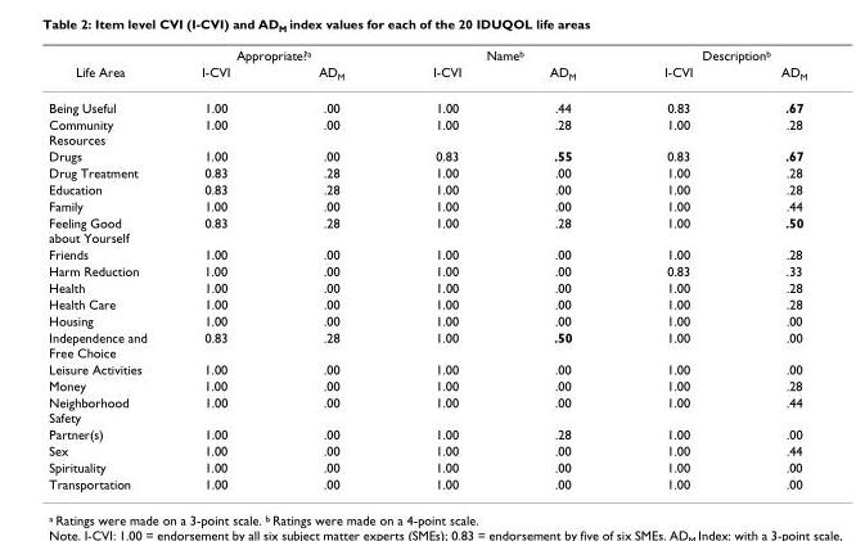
<table><thead><tr><td rowspan="2">Life Area</td><td colspan="2">Appropriate?<sup>a</sup></td><td colspan="2">Name<sup>b</sup></td><td colspan="2">Description<sup>b</sup></td></tr><tr><td>I-CVI</td><td>AD<sub>M</sub></td><td>I-CVI</td><td>AD<sub>M</sub></td><td>I-CVI</td><td>AD<sub>M</sub></td></tr></thead><tbody><tr><td>Being Useful</td><td>1.00</td><td>.00</td><td>1.00</td><td>.44</td><td>0.83</td><td>.67</td></tr><tr><td>Community Resources</td><td>1.00</td><td>.00</td><td>1.00</td><td>.28</td><td>1.00</td><td>.28</td></tr><tr><td>Drugs</td><td>1.00</td><td>.00</td><td>0.83</td><td>.55</td><td>0.83</td><td>.67</td></tr><tr><td>Drug Treatment</td><td>0.83</td><td>.28</td><td>1.00</td><td>.00</td><td>1.00</td><td>.28</td></tr><tr><td>Education</td><td>0.83</td><td>.28</td><td>1.00</td><td>.00</td><td>1.00</td><td>.28</td></tr><tr><td>Family</td><td>1.00</td><td>.00</td><td>1.00</td><td>.00</td><td>1.00</td><td>.44</td></tr><tr><td>Feeling Good about Yourself</td><td>0.83</td><td>.28</td><td>1.00</td><td>.28</td><td>1.00</td><td>.50</td></tr><tr><td>Friends</td><td>1.00</td><td>.00</td><td>1.00</td><td>.00</td><td>1.00</td><td>.28</td></tr><tr><td>Harm Reduction</td><td>1.00</td><td>.00</td><td>1.00</td><td>.00</td><td>0.83</td><td>.33</td></tr><tr><td>Health</td><td>1.00</td><td>.00</td><td>1.00</td><td>.00</td><td>1.00</td><td>.28</td></tr><tr><td>Health Care</td><td>1.00</td><td>.00</td><td>1.00</td><td>.00</td><td>1.00</td><td>.28</td></tr><tr><td>Housing</td><td>1.00</td><td>.00</td><td>1.00</td><td>.00</td><td>1.00</td><td>.00</td></tr><tr><td>Independence and Free Choice</td><td>0.83</td><td>.28</td><td>1.00</td><td>.50</td><td>1.00</td><td>.00</td></tr><tr><td>Leisure Activities</td><td>1.00</td><td>.00</td><td>1.00</td><td>.00</td><td>1.00</td><td>.00</td></tr><tr><td>Money</td><td>1.00</td><td>.00</td><td>1.00</td><td>.00</td><td>1.00</td><td>.28</td></tr><tr><td>Neighborhood Safety</td><td>1.00</td><td>.00</td><td>1.00</td><td>.00</td><td>1.00</td><td>.44</td></tr><tr><td>Partner(s)</td><td>1.00</td><td>.00</td><td>1.00</td><td>.28</td><td>1.00</td><td>.00</td></tr><tr><td>Sex</td><td>1.00</td><td>.00</td><td>1.00</td><td>.00</td><td>1.00</td><td>.44</td></tr><tr><td>Spirituality</td><td>1.00</td><td>.00</td><td>1.00</td><td>.00</td><td>1.00</td><td>.00</td></tr><tr><td>Transportation</td><td>1.00</td><td>.00</td><td>1.00</td><td>.00</td><td>1.00</td><td>.00</td></tr></tbody></table>